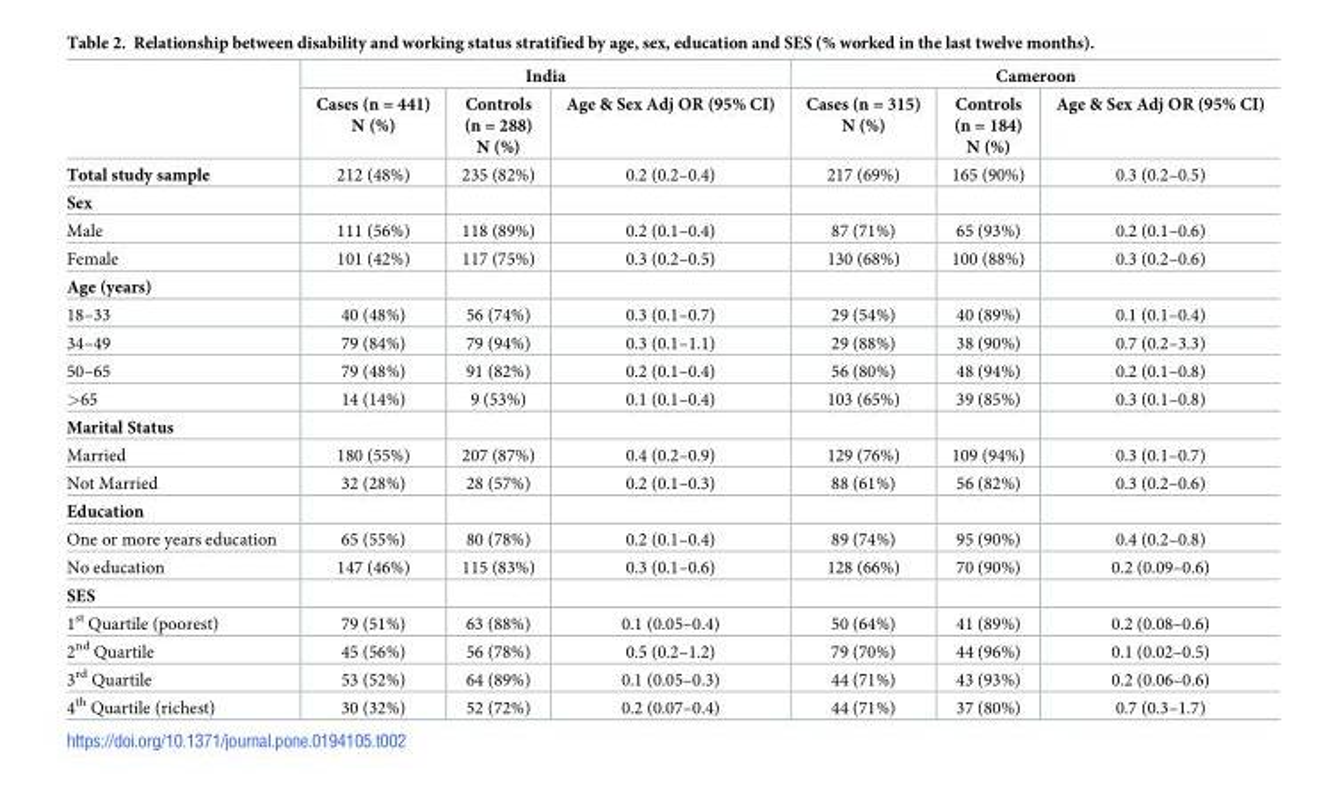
<table><thead><tr><td rowspan="2"></td><td colspan="3">India</td><td colspan="3">Cameroon</td></tr><tr><td>Cases (n = 441) N (%)</td><td>Controls (n = 288) N (%)</td><td>Age &amp; Sex Adj OR (95% CI)</td><td>Cases (n = 315) N (%)</td><td>Controls (n = 184) N (%)</td><td>Age &amp; Sex Adj OR (95% CI)</td></tr></thead><tbody><tr><td>Total study sample</td><td>212 (48%)</td><td>235 (82%)</td><td>0.2 (0.2–0.4)</td><td>217 (69%)</td><td>165 (90%)</td><td>0.3 (0.2–0.5)</td></tr><tr><td colspan="7">Sex</td></tr><tr><td>Male</td><td>111 (56%)</td><td>118 (89%)</td><td>0.2 (0.1–0.4)</td><td>87 (71%)</td><td>65 (93%)</td><td>0.2 (0.1–0.6)</td></tr><tr><td>Female</td><td>101 (42%)</td><td>117 (75%)</td><td>0.3 (0.2–0.5)</td><td>130 (68%)</td><td>100 (88%)</td><td>0.3 (0.2–0.6)</td></tr><tr><td colspan="7">Age (years)</td></tr><tr><td>18–33</td><td>40 (48%)</td><td>56 (74%)</td><td>0.3 (0.1–0.7)</td><td>29 (54%)</td><td>40 (89%)</td><td>0.1 (0.1–0.4)</td></tr><tr><td>34–49</td><td>79 (84%)</td><td>79 (94%)</td><td>0.3 (0.1–1.1)</td><td>29 (88%)</td><td>38 (90%)</td><td>0.7 (0.2–3.3)</td></tr><tr><td>50–65</td><td>79 (48%)</td><td>91 (82%)</td><td>0.2 (0.1–0.4)</td><td>56 (80%)</td><td>48 (94%)</td><td>0.2 (0.1–0.8)</td></tr><tr><td>&gt;65</td><td>14 (14%)</td><td>9 (53%)</td><td>0.1 (0.1–0.4)</td><td>103 (65%)</td><td>39 (85%)</td><td>0.3 (0.1–0.8)</td></tr><tr><td colspan="7">Marital Status</td></tr><tr><td>Married</td><td>180 (55%)</td><td>207 (87%)</td><td>0.4 (0.2–0.9)</td><td>129 (76%)</td><td>109 (94%)</td><td>0.3 (0.1–0.7)</td></tr><tr><td>Not Married</td><td>32 (28%)</td><td>28 (57%)</td><td>0.2 (0.1–0.3)</td><td>88 (61%)</td><td>56 (82%)</td><td>0.3 (0.2–0.6)</td></tr><tr><td colspan="7">Education</td></tr><tr><td>One or more years education</td><td>65 (55%)</td><td>80 (78%)</td><td>0.2 (0.1–0.4)</td><td>89 (74%)</td><td>95 (90%)</td><td>0.4 (0.2–0.8)</td></tr><tr><td>No education</td><td>147 (46%)</td><td>115 (83%)</td><td>0.3 (0.1–0.6)</td><td>128 (66%)</td><td>70 (90%)</td><td>0.2 (0.09–0.6)</td></tr><tr><td colspan="7">SES</td></tr><tr><td>1<sup>st</sup> Quartile (poorest)</td><td>79 (51%)</td><td>63 (88%)</td><td>0.1 (0.05–0.4)</td><td>50 (64%)</td><td>41 (89%)</td><td>0.2 (0.08–0.6)</td></tr><tr><td>2<sup>nd</sup> Quartile</td><td>45 (56%)</td><td>56 (78%)</td><td>0.5 (0.2–1.2)</td><td>79 (70%)</td><td>44 (96%)</td><td>0.1 (0.02–0.5)</td></tr><tr><td>3<sup>rd</sup> Quartile</td><td>53 (52%)</td><td>64 (89%)</td><td>0.1 (0.05–0.3)</td><td>44 (71%)</td><td>43 (93%)</td><td>0.2 (0.06–0.6)</td></tr><tr><td>4<sup>th</sup> Quartile (richest)</td><td>30 (32%)</td><td>52 (72%)</td><td>0.2 (0.07–0.4)</td><td>44 (71%)</td><td>37 (80%)</td><td>0.7 (0.3–1.7)</td></tr></tbody></table>